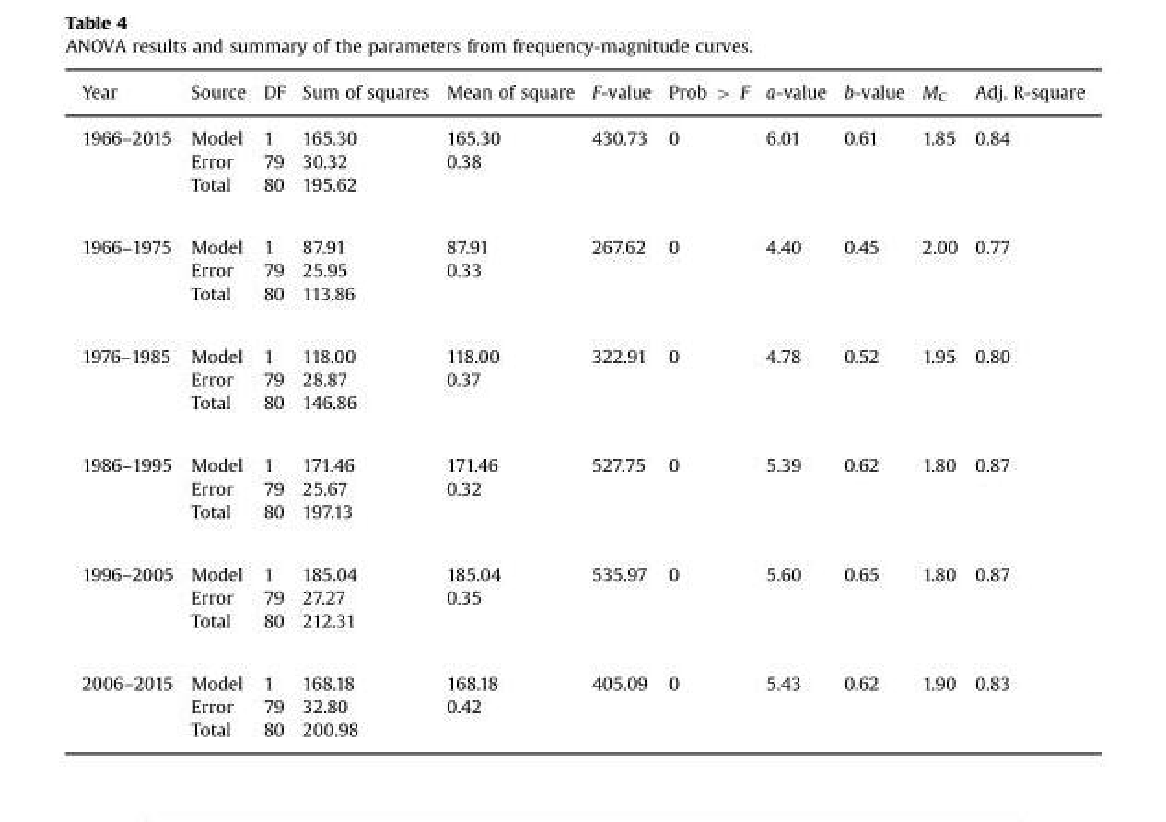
<table><thead><tr><td>Year</td><td>Source</td><td>DF</td><td>Sum of squares</td><td>Mean of square</td><td>F-value</td><td>Prob &gt; F</td><td>a-value</td><td>b-value</td><td>M<sub>C</sub></td><td>Adj. R-square</td></tr></thead><tbody><tr><td rowspan="3">1966–2015</td><td>Model</td><td>1</td><td>165.30</td><td>165.30</td><td>430.73</td><td>0</td><td>6.01</td><td>0.61</td><td>1.85</td><td>0.84</td></tr><tr><td>Error</td><td>79</td><td>30.32</td><td>0.38</td><td></td><td></td><td></td><td></td><td></td><td></td></tr><tr><td>Total</td><td>80</td><td>195.62</td><td></td><td></td><td></td><td></td><td></td><td></td><td></td></tr><tr><td rowspan="3">1966–1975</td><td>Model</td><td>1</td><td>87.91</td><td>87.91</td><td>267.62</td><td>0</td><td>4.40</td><td>0.45</td><td>2.00</td><td>0.77</td></tr><tr><td>Error</td><td>79</td><td>25.95</td><td>0.33</td><td></td><td></td><td></td><td></td><td></td><td></td></tr><tr><td>Total</td><td>80</td><td>113.86</td><td></td><td></td><td></td><td></td><td></td><td></td><td></td></tr><tr><td rowspan="3">1976–1985</td><td>Model</td><td>1</td><td>118.00</td><td>118.00</td><td>322.91</td><td>0</td><td>4.78</td><td>0.52</td><td>1.95</td><td>0.80</td></tr><tr><td>Error</td><td>79</td><td>28.87</td><td>0.37</td><td></td><td></td><td></td><td></td><td></td><td></td></tr><tr><td>Total</td><td>80</td><td>146.86</td><td></td><td></td><td></td><td></td><td></td><td></td><td></td></tr><tr><td rowspan="3">1986–1995</td><td>Model</td><td>1</td><td>171.46</td><td>171.46</td><td>527.75</td><td>0</td><td>5.39</td><td>0.62</td><td>1.80</td><td>0.87</td></tr><tr><td>Error</td><td>79</td><td>25.67</td><td>0.32</td><td></td><td></td><td></td><td></td><td></td><td></td></tr><tr><td>Total</td><td>80</td><td>197.13</td><td></td><td></td><td></td><td></td><td></td><td></td><td></td></tr><tr><td rowspan="3">1996–2005</td><td>Model</td><td>1</td><td>185.04</td><td>185.04</td><td>535.97</td><td>0</td><td>5.60</td><td>0.65</td><td>1.80</td><td>0.87</td></tr><tr><td>Error</td><td>79</td><td>27.27</td><td>0.35</td><td></td><td></td><td></td><td></td><td></td><td></td></tr><tr><td>Total</td><td>80</td><td>212.31</td><td></td><td></td><td></td><td></td><td></td><td></td><td></td></tr><tr><td rowspan="3">2006–2015</td><td>Model</td><td>1</td><td>168.18</td><td>168.18</td><td>405.09</td><td>0</td><td>5.43</td><td>0.62</td><td>1.90</td><td>0.83</td></tr><tr><td>Error</td><td>79</td><td>32.80</td><td>0.42</td><td></td><td></td><td></td><td></td><td></td><td></td></tr><tr><td>Total</td><td>80</td><td>200.98</td><td></td><td></td><td></td><td></td><td></td><td></td><td></td></tr></tbody></table>